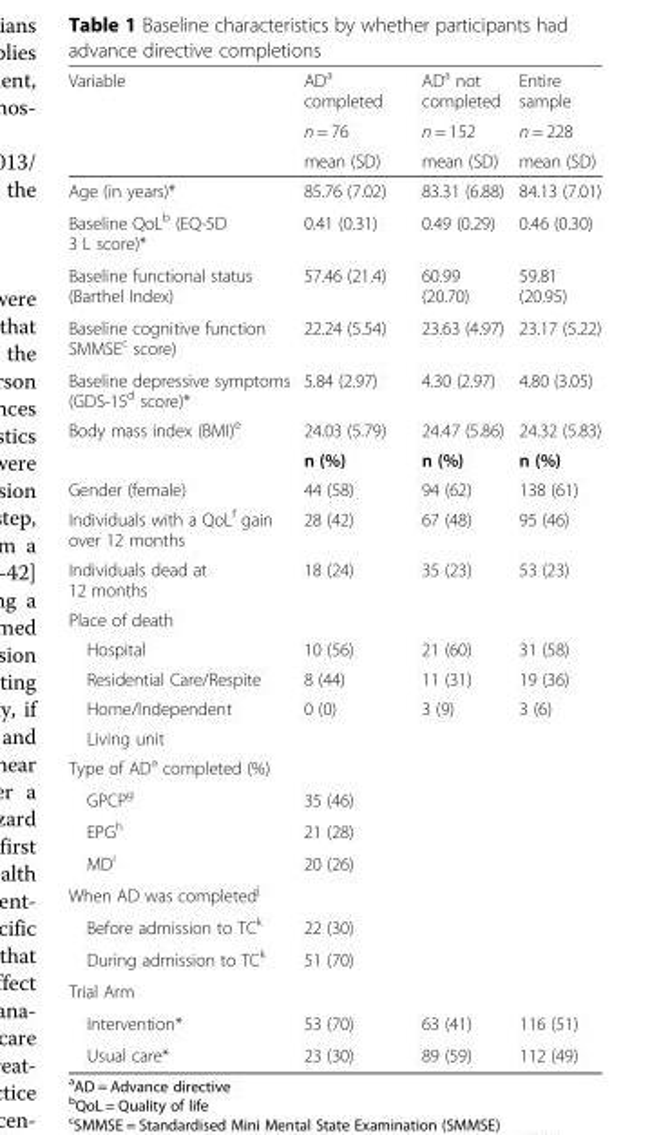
<table><thead><tr><td rowspan="3">Variable</td><td rowspan="3">AD<sup>a</sup> completed n = 76 mean (SD)</td><td rowspan="3">AD<sup>a</sup> not completed n = 152 mean (SD)</td><td rowspan="3">Entire sample n = 228 mean (SD)</td></tr><tr></tr><tr></tr></thead><tbody><tr><td>Age (in years)*</td><td>85.76 (7.02)</td><td>83.31 (6.88)</td><td>84.13 (7.01)</td></tr><tr><td>Baseline QoL<sup>b</sup> (EQ-5D 3 L score)*</td><td>0.41 (0.31)</td><td>0.49 (0.29)</td><td>0.46 (0.30)</td></tr><tr><td>Baseline functional status (Barthel Index)</td><td>57.46 (21.4)</td><td>60.99 (20.70)</td><td>59.81 (20.95)</td></tr><tr><td>Baseline cognitive function SMMSE<sup>c</sup> score)</td><td>22.24 (5.54)</td><td>23.63 (4.97)</td><td>23.17 (5.22)</td></tr><tr><td>Baseline depressive symptoms (GDS-15<sup>d</sup> score)*</td><td>5.84 (2.97)</td><td>4.30 (2.97)</td><td>4.80 (3.05)</td></tr><tr><td rowspan="2">Body mass index (BMI)<sup>e</sup></td><td>24.03 (5.79)</td><td>24.47 (5.86)</td><td>24.32 (5.83)</td></tr><tr><td>n (%)</td><td>n (%)</td><td>n (%)</td></tr><tr><td>Gender (female)</td><td>44 (58)</td><td>94 (62)</td><td>138 (61)</td></tr><tr><td>Individuals with a QoL<sup>f</sup> gain over 12 months</td><td>28 (42)</td><td>67 (48)</td><td>95 (46)</td></tr><tr><td>Individuals dead at 12 months</td><td>18 (24)</td><td>35 (23)</td><td>53 (23)</td></tr><tr><td colspan="4">Place of death</td></tr><tr><td>Hospital</td><td>10 (56)</td><td>21 (60)</td><td>31 (58)</td></tr><tr><td>Residential Care/Respite</td><td>8 (44)</td><td>11 (31)</td><td>19 (36)</td></tr><tr><td>Home/Independent</td><td rowspan="2">0 (0)</td><td rowspan="2">3 (9)</td><td rowspan="2">3 (6)</td></tr><tr><td>Living unit</td></tr><tr><td colspan="4">Type of AD<sup>a</sup> completed (%)</td></tr><tr><td>GPCP<sup>g</sup></td><td>35 (46)</td><td></td><td></td></tr><tr><td>EPG<sup>h</sup></td><td>21 (28)</td><td></td><td></td></tr><tr><td>MD<sup>i</sup></td><td>20 (26)</td><td></td><td></td></tr><tr><td colspan="4">When AD was completed<sup>j</sup></td></tr><tr><td>Before admission to TC<sup>k</sup></td><td>22 (30)</td><td></td><td></td></tr><tr><td>During admission to TC<sup>k</sup></td><td>51 (70)</td><td></td><td></td></tr><tr><td colspan="4">Trial Arm</td></tr><tr><td>Intervention*</td><td>53 (70)</td><td>63 (41)</td><td>116 (51)</td></tr><tr><td>Usual care*</td><td>23 (30)</td><td>89 (59)</td><td>112 (49)</td></tr></tbody></table>